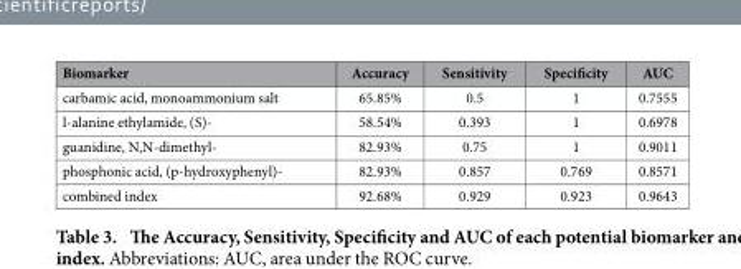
<table><thead><tr><td>Biomarker</td><td>Accuracy</td><td>Sensitivity</td><td>Specificity</td><td>AUC</td></tr></thead><tbody><tr><td>carbamic acid, monoammonium salt</td><td>65.85%</td><td>0.5</td><td>1</td><td>0.7555</td></tr><tr><td>l-alanine ethylamide, (S)-</td><td>58.54%</td><td>0.393</td><td>1</td><td>0.6978</td></tr><tr><td>guanidine, N,N-dimethyl-</td><td>82.93%</td><td>0.75</td><td>1</td><td>0.9011</td></tr><tr><td>phosphonic acid, (p-hydroxyphenyl)-</td><td>82.93%</td><td>0.857</td><td>0.769</td><td>0.8571</td></tr><tr><td>combined index</td><td>92.68%</td><td>0.929</td><td>0.923</td><td>0.9643</td></tr></tbody></table>